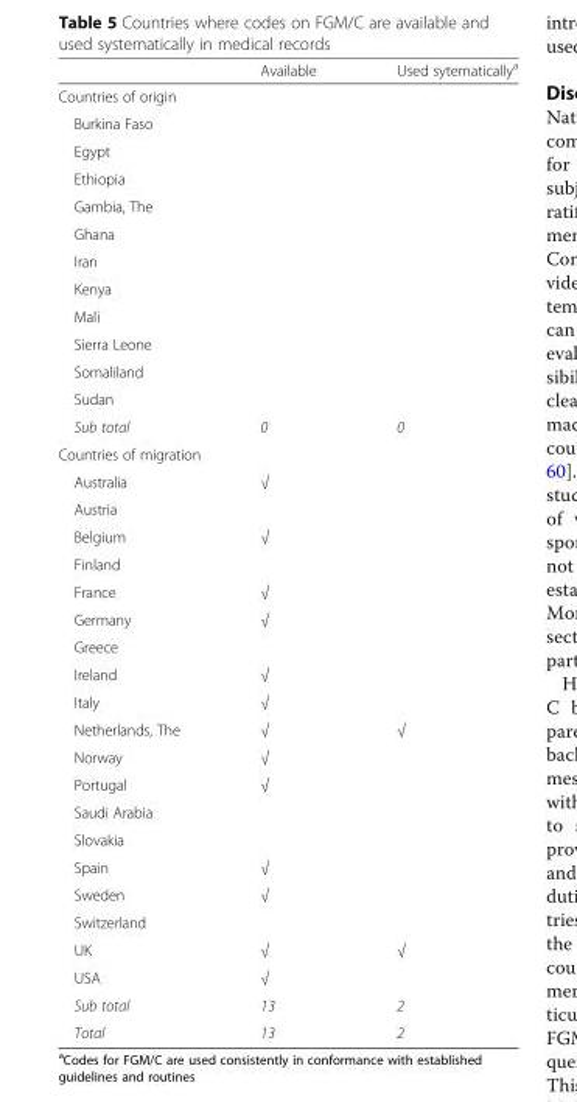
<table><thead><tr><td></td><td>Available</td><td>Used sytematically<sup>a</sup></td></tr></thead><tbody><tr><td colspan="3">Countries of origin</td></tr><tr><td colspan="3">Burkina Faso</td></tr><tr><td colspan="3">Egypt</td></tr><tr><td colspan="3">Ethiopia</td></tr><tr><td colspan="3">Gambia, The</td></tr><tr><td colspan="3">Ghana</td></tr><tr><td colspan="3">Iran</td></tr><tr><td colspan="3">Kenya</td></tr><tr><td colspan="3">Mali</td></tr><tr><td colspan="3">Sierra Leone</td></tr><tr><td colspan="3">Somaliland</td></tr><tr><td colspan="3">Sudan</td></tr><tr><td>Sub total</td><td>0</td><td>0</td></tr><tr><td colspan="3">Countries of migration</td></tr><tr><td>Australia</td><td>√</td><td></td></tr><tr><td colspan="3">Austria</td></tr><tr><td>Belgium</td><td>√</td><td></td></tr><tr><td colspan="3">Finland</td></tr><tr><td>France</td><td>√</td><td></td></tr><tr><td>Germany</td><td>√</td><td></td></tr><tr><td colspan="3">Greece</td></tr><tr><td>Ireland</td><td>√</td><td></td></tr><tr><td>Italy</td><td>√</td><td></td></tr><tr><td>Netherlands, The</td><td>√</td><td>√</td></tr><tr><td>Norway</td><td>√</td><td></td></tr><tr><td>Portugal</td><td>√</td><td></td></tr><tr><td colspan="3">Saudi Arabia</td></tr><tr><td colspan="3">Slovakia</td></tr><tr><td>Spain</td><td>√</td><td></td></tr><tr><td>Sweden</td><td>√</td><td></td></tr><tr><td colspan="3">Switzerland</td></tr><tr><td>UK</td><td>√</td><td>√</td></tr><tr><td>USA</td><td>√</td><td></td></tr><tr><td>Sub total</td><td>13</td><td>2</td></tr><tr><td>Total</td><td>13</td><td>2</td></tr></tbody></table>